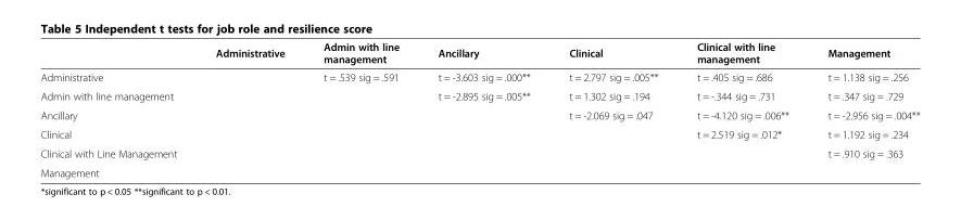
<table><thead><tr><td></td><td>Administrative</td><td>Admin with line management</td><td>Ancillary</td><td>Clinical</td><td>Clinical with line management</td><td>Management</td></tr></thead><tbody><tr><td>Administrative</td><td></td><td>t = .539 sig = .591</td><td>t = -3.603 sig = .000**</td><td>t = 2.797 sig = .005**</td><td>t = .405 sig = .686</td><td>t = 1.138 sig = .256</td></tr><tr><td>Admin with line management</td><td></td><td></td><td>t = -2.895 sig = .005**</td><td>t = 1.302 sig = .194</td><td>t = -.344 sig = .731</td><td>t = .347 sig = .729</td></tr><tr><td>Ancillary</td><td></td><td></td><td></td><td>t = -2.069 sig = .047</td><td>t = -4.120 sig = .006**</td><td>t = -2.956 sig = .004**</td></tr><tr><td>Clinical</td><td></td><td></td><td></td><td></td><td>t = 2.519 sig = .012*</td><td>t = 1.192 sig = .234</td></tr><tr><td>Clinical with Line Management</td><td></td><td></td><td></td><td></td><td></td><td>t = .910 sig = .363</td></tr><tr><td>Management</td><td></td><td></td><td></td><td></td><td></td><td></td></tr></tbody></table>